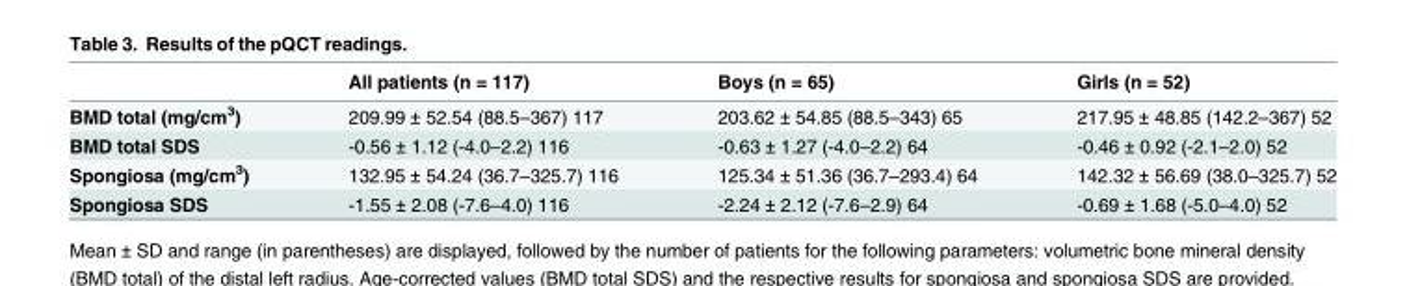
<table><thead><tr><td></td><td>All patients (n = 117)</td><td>Boys (n = 65)</td><td>Girls (n = 52)</td></tr></thead><tbody><tr><td>BMD total (mg/cm<sup>3</sup>)</td><td>209.99 ± 52.54 (88.5–367) 117</td><td>203.62 ± 54.85 (88.5–343) 65</td><td>217.95 ± 48.85 (142.2–367) 52</td></tr><tr><td>BMD total SDS</td><td>-0.56 ± 1.12 (-4.0–2.2) 116</td><td>-0.63 ± 1.27 (-4.0–2.2) 64</td><td>-0.46 ± 0.92 (-2.1–2.0) 52</td></tr><tr><td>Spongiosa (mg/cm<sup>3</sup>)</td><td>132.95 ± 54.24 (36.7–325.7) 116</td><td>125.34 ± 51.36 (36.7–293.4) 64</td><td>142.32 ± 56.69 (38.0–325.7) 52</td></tr><tr><td>Spongiosa SDS</td><td>-1.55 ± 2.08 (-7.6–4.0) 116</td><td>-2.24 ± 2.12 (-7.6–2.9) 64</td><td>-0.69 ± 1.68 (-5.0–4.0) 52</td></tr></tbody></table>